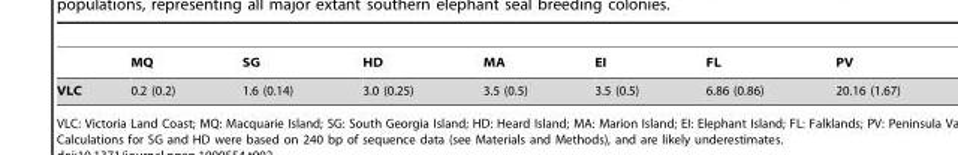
<table><thead><tr><td></td><td>MQ</td><td>SG</td><td>HD</td><td>MA</td><td>EI</td><td>FL</td><td>PV</td></tr></thead><tbody><tr><td>VLC</td><td>0.2 (0.2)</td><td>1.6 (0.14)</td><td>3.0 (0.25)</td><td>3.5 (0.5)</td><td>3.5 (0.5)</td><td>6.86 (0.86)</td><td>20.16 (1.67)</td></tr></tbody></table>